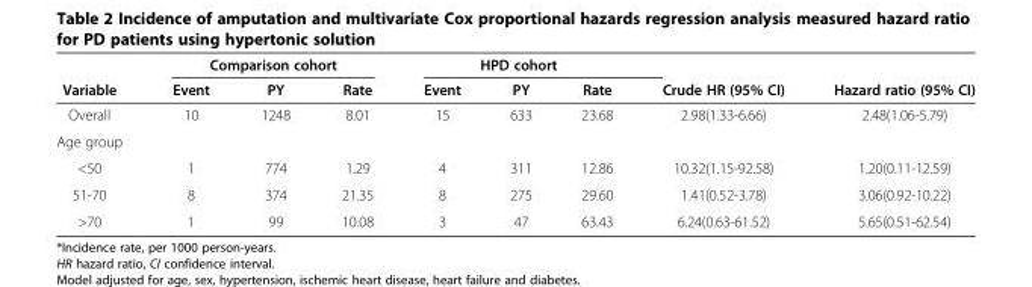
<table><thead><tr><td rowspan="2">Variable</td><td colspan="3">Comparison cohort</td><td colspan="3">HPD cohort</td><td rowspan="2">Crude HR (95% CI)</td><td rowspan="2">Hazard ratio (95% CI)</td></tr><tr><td>Event</td><td>PY</td><td>Rate</td><td>Event</td><td>PY</td><td>Rate</td></tr></thead><tbody><tr><td>Overall</td><td>10</td><td>1248</td><td>8.01</td><td>15</td><td>633</td><td>23.68</td><td>2.98(1.33-6.66)</td><td>2.48(1.06-5.79)</td></tr><tr><td colspan="9">Age group</td></tr><tr><td>&lt;50</td><td>1</td><td>774</td><td>1.29</td><td>4</td><td>311</td><td>12.86</td><td>10.32(1.15-92.58)</td><td>1.20(0.11-12.59)</td></tr><tr><td>51-70</td><td>8</td><td>374</td><td>21.35</td><td>8</td><td>275</td><td>29.60</td><td>1.41(0.52-3.78)</td><td>3.06(0.92-10.22)</td></tr><tr><td>&gt;70</td><td>1</td><td>99</td><td>10.08</td><td>3</td><td>47</td><td>63.43</td><td>6.24(0.63-61.52)</td><td>5.65(0.51-62.54)</td></tr></tbody></table>